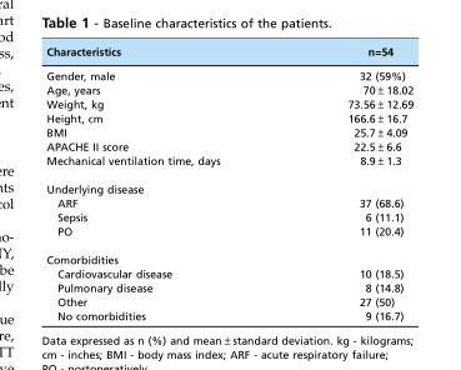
<table><thead><tr><td>Characteristics</td><td>n=54</td></tr></thead><tbody><tr><td>Gender, male</td><td>32 (59%)</td></tr><tr><td>Age, years</td><td>70±18.02</td></tr><tr><td>Weight, kg</td><td>73.56±12.69</td></tr><tr><td>Height, cm</td><td>166.6±16.7</td></tr><tr><td>BMI</td><td>25.7±4.09</td></tr><tr><td>APACHE II score</td><td>22.5±6.6</td></tr><tr><td>Mechanical ventilation time, days</td><td>8.9±1.3</td></tr><tr><td colspan="2">Underlying disease</td></tr><tr><td>ARF</td><td>37 (68.6)</td></tr><tr><td>Sepsis</td><td>6 (11.1)</td></tr><tr><td>PO</td><td>11 (20.4)</td></tr><tr><td colspan="2">Comorbidities</td></tr><tr><td>Cardiovascular disease</td><td>10 (18.5)</td></tr><tr><td>Pulmonary disease</td><td>8 (14.8)</td></tr><tr><td>Other</td><td>27 (50)</td></tr><tr><td>No comorbidities</td><td>9 (16.7)</td></tr></tbody></table>